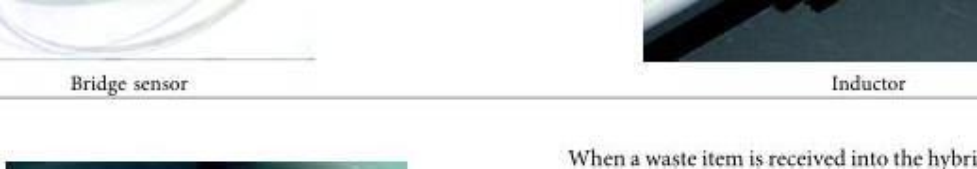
<table><tbody><tr><td>Bridge sensor</td><td>Inductor</td></tr></tbody></table>